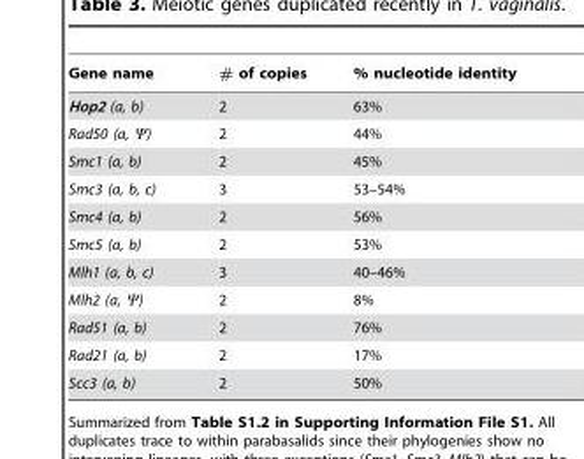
<table><thead><tr><td>Gene name</td><td># of copies</td><td>% nucleotide identity</td></tr></thead><tbody><tr><td>Hop2 (a, b)</td><td>2</td><td>63%</td></tr><tr><td>Rad50 (a, Ψ)</td><td>2</td><td>44%</td></tr><tr><td>Smc1 (a, b)</td><td>2</td><td>45%</td></tr><tr><td>Smc3 (a, b, c)</td><td>3</td><td>53–54%</td></tr><tr><td>Smc4 (a, b)</td><td>2</td><td>56%</td></tr><tr><td>Smc5 (a, b)</td><td>2</td><td>53%</td></tr><tr><td>Mlh1 (a, b, c)</td><td>3</td><td>40–46%</td></tr><tr><td>Mlh2 (a, Ψ)</td><td>2</td><td>8%</td></tr><tr><td>Rad51 (a, b)</td><td>2</td><td>76%</td></tr><tr><td>Rad21 (a, b)</td><td>2</td><td>17%</td></tr><tr><td>Scc3 (a, b)</td><td>2</td><td>50%</td></tr></tbody></table>